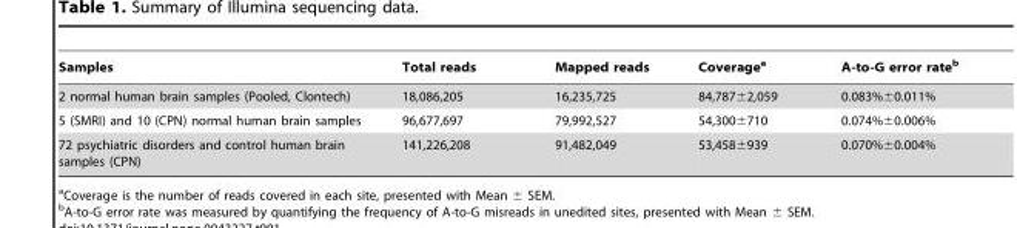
<table><thead><tr><td>Samples</td><td>Total reads</td><td>Mapped reads</td><td>Coverage<sup>a</sup></td><td>A-to-G error rate<sup>b</sup></td></tr></thead><tbody><tr><td>2 normal human brain samples (Pooled, Clontech)</td><td>18,086,205</td><td>16,235,725</td><td>84,787±2,059</td><td>0.083%±0.011%</td></tr><tr><td>5 (SMRI) and 10 (CPN) normal human brain samples</td><td>96,677,697</td><td>79,992,527</td><td>54,300±710</td><td>0.074%±0.006%</td></tr><tr><td>72 psychiatric disorders and control human brain samples (CPN)</td><td>141,226,208</td><td>91,482,049</td><td>53,458±939</td><td>0.070%±0.004%</td></tr></tbody></table>